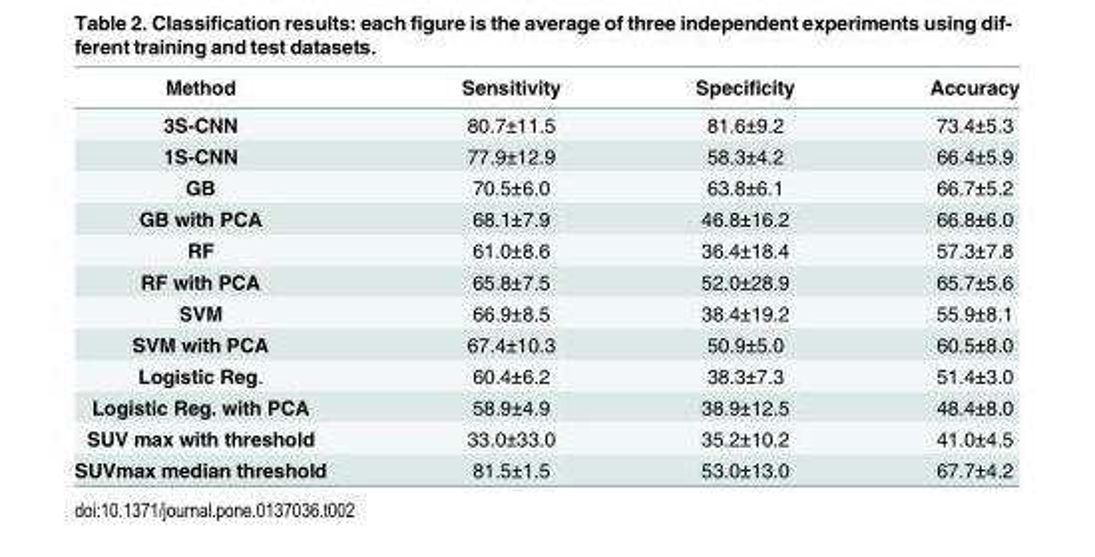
<table><thead><tr><td>Method</td><td>Sensitivity</td><td>Specificity</td><td>Accuracy</td></tr></thead><tbody><tr><td>3S-CNN</td><td>80.7±11.5</td><td>81.6±9.2</td><td>73.4±5.3</td></tr><tr><td>1S-CNN</td><td>77.9±12.9</td><td>58.3±4.2</td><td>66.4±5.9</td></tr><tr><td>GB</td><td>70.5±6.0</td><td>63.8±6.1</td><td>66.7±5.2</td></tr><tr><td>GB with PCA</td><td>68.1±7.9</td><td>46.8±16.2</td><td>66.8±6.0</td></tr><tr><td>RF</td><td>61.0±8.6</td><td>36.4±18.4</td><td>57.3±7.8</td></tr><tr><td>RF with PCA</td><td>65.8±7.5</td><td>52.0±28.9</td><td>65.7±5.6</td></tr><tr><td>SVM</td><td>66.9±8.5</td><td>38.4±19.2</td><td>55.9±8.1</td></tr><tr><td>SVM with PCA</td><td>67.4±10.3</td><td>50.9±5.0</td><td>60.5±8.0</td></tr><tr><td>Logistic Reg.</td><td>60.4±6.2</td><td>38.3±7.3</td><td>51.4±3.0</td></tr><tr><td>Logistic Reg. with PCA</td><td>58.9±4.9</td><td>38.9±12.5</td><td>48.4±8.0</td></tr><tr><td>SUV max with threshold</td><td>33.0±33.0</td><td>35.2±10.2</td><td>41.0±4.5</td></tr><tr><td>SUVmax median threshold</td><td>81.5±1.5</td><td>53.0±13.0</td><td>67.7±4.2</td></tr></tbody></table>